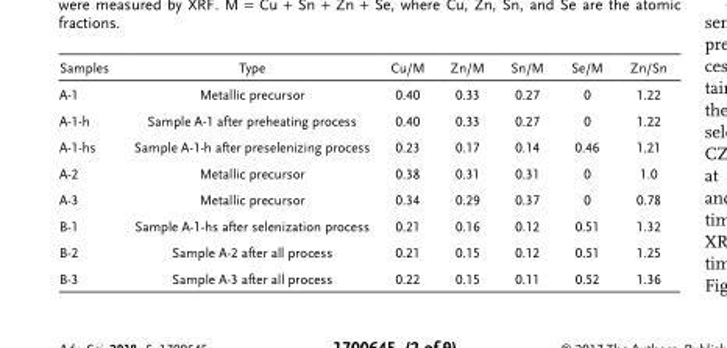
<table><thead><tr><td>Samples</td><td>Type</td><td>Cu/M</td><td>Zn/M</td><td>Sn/M</td><td>Se/M</td><td>Zn/Sn</td></tr></thead><tbody><tr><td>A-1</td><td>Metallic precursor</td><td>0.40</td><td>0.33</td><td>0.27</td><td>0</td><td>1.22</td></tr><tr><td>A-1-h</td><td>Sample A-1 after preheating process</td><td>0.40</td><td>0.33</td><td>0.27</td><td>0</td><td>1.22</td></tr><tr><td>A-1-hs</td><td>Sample A-1-h after preselenizing process</td><td>0.23</td><td>0.17</td><td>0.14</td><td>0.46</td><td>1.21</td></tr><tr><td>A-2</td><td>Metallic precursor</td><td>0.38</td><td>0.31</td><td>0.31</td><td>0</td><td>1.0</td></tr><tr><td>A-3</td><td>Metallic precursor</td><td>0.34</td><td>0.29</td><td>0.37</td><td>0</td><td>0.78</td></tr><tr><td>B-1</td><td>Sample A-1-hs after selenization process</td><td>0.21</td><td>0.16</td><td>0.12</td><td>0.51</td><td>1.32</td></tr><tr><td>B-2</td><td>Sample A-2 after all process</td><td>0.21</td><td>0.15</td><td>0.12</td><td>0.51</td><td>1.25</td></tr><tr><td>B-3</td><td>Sample A-3 after all process</td><td>0.22</td><td>0.15</td><td>0.11</td><td>0.52</td><td>1.36</td></tr></tbody></table>